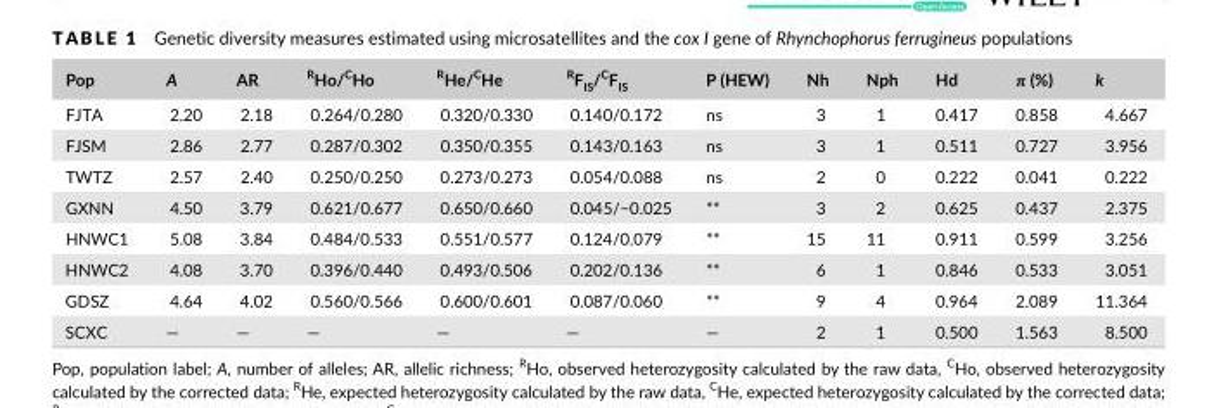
<table><thead><tr><td>Pop</td><td>A</td><td>AR</td><td><sup>R</sup>Ho/<sup>C</sup>Ho</td><td><sup>R</sup>He/<sup>C</sup>He</td><td><sup>R</sup>F<sub>IS</sub>/<sup>C</sup>F<sub>IS</sub></td><td>P (HEW)</td><td>Nh</td><td>Nph</td><td>Hd</td><td>π (%)</td><td>k</td></tr></thead><tbody><tr><td>FJTA</td><td>2.20</td><td>2.18</td><td>0.264/0.280</td><td>0.320/0.330</td><td>0.140/0.172</td><td>ns</td><td>3</td><td>1</td><td>0.417</td><td>0.858</td><td>4.667</td></tr><tr><td>FJSM</td><td>2.86</td><td>2.77</td><td>0.287/0.302</td><td>0.350/0.355</td><td>0.143/0.163</td><td>ns</td><td>3</td><td>1</td><td>0.511</td><td>0.727</td><td>3.956</td></tr><tr><td>TWTZ</td><td>2.57</td><td>2.40</td><td>0.250/0.250</td><td>0.273/0.273</td><td>0.054/0.088</td><td>ns</td><td>2</td><td>0</td><td>0.222</td><td>0.041</td><td>0.222</td></tr><tr><td>GXNN</td><td>4.50</td><td>3.79</td><td>0.621/0.677</td><td>0.650/0.660</td><td>0.045/−0.025</td><td>**</td><td>3</td><td>2</td><td>0.625</td><td>0.437</td><td>2.375</td></tr><tr><td>HNWC1</td><td>5.08</td><td>3.84</td><td>0.484/0.533</td><td>0.551/0.577</td><td>0.124/0.079</td><td>**</td><td>15</td><td>11</td><td>0.911</td><td>0.599</td><td>3.256</td></tr><tr><td>HNWC2</td><td>4.08</td><td>3.70</td><td>0.396/0.440</td><td>0.493/0.506</td><td>0.202/0.136</td><td>**</td><td>6</td><td>1</td><td>0.846</td><td>0.533</td><td>3.051</td></tr><tr><td>GDSZ</td><td>4.64</td><td>4.02</td><td>0.560/0.566</td><td>0.600/0.601</td><td>0.087/0.060</td><td>**</td><td>9</td><td>4</td><td>0.964</td><td>2.089</td><td>11.364</td></tr><tr><td>SCXC</td><td>—</td><td>—</td><td>—</td><td>—</td><td>—</td><td>—</td><td>2</td><td>1</td><td>0.500</td><td>1.563</td><td>8.500</td></tr></tbody></table>